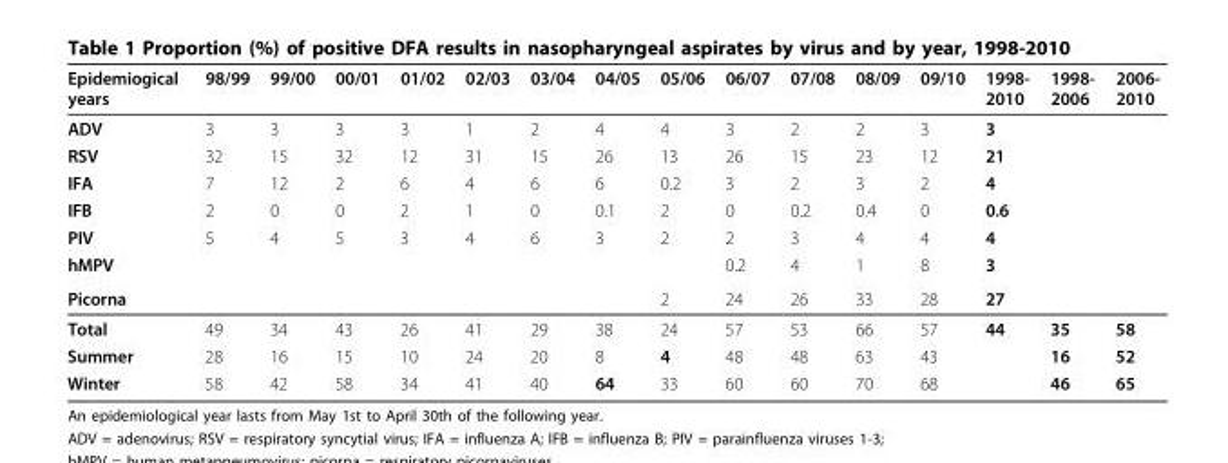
<table><thead><tr><td>Epidemiogical years</td><td>98/99</td><td>99/00</td><td>00/01</td><td>01/02</td><td>02/03</td><td>03/04</td><td>04/05</td><td>05/06</td><td>06/07</td><td>07/08</td><td>08/09</td><td>09/10</td><td>1998- 2010</td><td>1998- 2006</td><td>2006- 2010</td></tr></thead><tbody><tr><td>ADV</td><td>3</td><td>3</td><td>3</td><td>3</td><td>1</td><td>2</td><td>4</td><td>4</td><td>3</td><td>2</td><td>2</td><td>3</td><td>3</td><td></td><td></td></tr><tr><td>RSV</td><td>32</td><td>15</td><td>32</td><td>12</td><td>31</td><td>15</td><td>26</td><td>13</td><td>26</td><td>15</td><td>23</td><td>12</td><td>21</td><td></td><td></td></tr><tr><td>IFA</td><td>7</td><td>12</td><td>2</td><td>6</td><td>4</td><td>6</td><td>6</td><td>0.2</td><td>3</td><td>2</td><td>3</td><td>2</td><td>4</td><td></td><td></td></tr><tr><td>IFB</td><td>2</td><td>0</td><td>0</td><td>2</td><td>1</td><td>0</td><td>0.1</td><td>2</td><td>0</td><td>0.2</td><td>0.4</td><td>0</td><td>0.6</td><td></td><td></td></tr><tr><td>PIV</td><td>5</td><td>4</td><td>5</td><td>3</td><td>4</td><td>6</td><td>3</td><td>2</td><td>2</td><td>3</td><td>4</td><td>4</td><td>4</td><td></td><td></td></tr><tr><td>hMPV</td><td></td><td></td><td></td><td></td><td></td><td></td><td></td><td></td><td>0.2</td><td>4</td><td>1</td><td>8</td><td>3</td><td></td><td></td></tr><tr><td>Picorna</td><td></td><td></td><td></td><td></td><td></td><td></td><td></td><td>2</td><td>24</td><td>26</td><td>33</td><td>28</td><td>27</td><td></td><td></td></tr><tr><td>Total</td><td>49</td><td>34</td><td>43</td><td>26</td><td>41</td><td>29</td><td>38</td><td>24</td><td>57</td><td>53</td><td>66</td><td>57</td><td>44</td><td>35</td><td>58</td></tr><tr><td>Summer</td><td>28</td><td>16</td><td>15</td><td>10</td><td>24</td><td>20</td><td>8</td><td>4</td><td>48</td><td>48</td><td>63</td><td>43</td><td></td><td>16</td><td>52</td></tr><tr><td>Winter</td><td>58</td><td>42</td><td>58</td><td>34</td><td>41</td><td>40</td><td>64</td><td>33</td><td>60</td><td>60</td><td>70</td><td>68</td><td></td><td>46</td><td>65</td></tr></tbody></table>